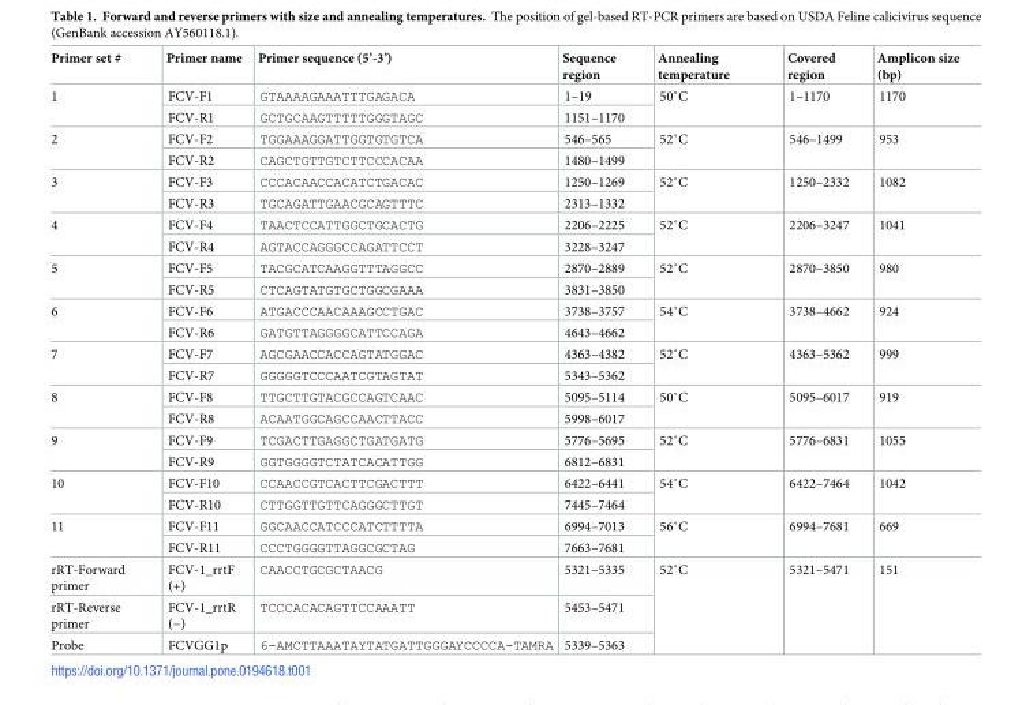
<table><thead><tr><td>Primer set #</td><td>Primer name</td><td>Primer sequence (5’-3’)</td><td>Sequence region</td><td>Annealing temperature</td><td>Covered region</td><td>Amplicon size (bp)</td></tr></thead><tbody><tr><td rowspan="2">1</td><td>FCV-F1</td><td>GTAAAAGAAATTTGAGACA</td><td>1–19</td><td rowspan="2">50˚C</td><td rowspan="2">1–1170</td><td rowspan="2">1170</td></tr><tr><td>FCV-R1</td><td>GCTGCAAGTTTTTGGGTAGC</td><td>1151–1170</td></tr><tr><td rowspan="2">2</td><td>FCV-F2</td><td>TGGAAAGGATTGGTGTGTCA</td><td>546–565</td><td rowspan="2">52˚C</td><td rowspan="2">546–1499</td><td rowspan="2">953</td></tr><tr><td>FCV-R2</td><td>CAGCTGTTGTCTTCCCACAA</td><td>1480–1499</td></tr><tr><td rowspan="2">3</td><td>FCV-F3</td><td>CCCACAACCACATCTGACAC</td><td>1250–1269</td><td rowspan="2">52˚C</td><td rowspan="2">1250–2332</td><td rowspan="2">1082</td></tr><tr><td>FCV-R3</td><td>TGCAGATTGAACGCAGTTTC</td><td>2313–1332</td></tr><tr><td rowspan="2">4</td><td>FCV-F4</td><td>TAACTCCATTGGCTGCACTG</td><td>2206–2225</td><td rowspan="2">52˚C</td><td rowspan="2">2206–3247</td><td rowspan="2">1041</td></tr><tr><td>FCV-R4</td><td>AGTACCAGGGCCAGATTCCT</td><td>3228–3247</td></tr><tr><td rowspan="2">5</td><td>FCV-F5</td><td>TACGCATCAAGGTTTAGGCC</td><td>2870–2889</td><td rowspan="2">52˚C</td><td rowspan="2">2870–3850</td><td rowspan="2">980</td></tr><tr><td>FCV-R5</td><td>CTCAGTATGTGCTGGCGAAA</td><td>3831–3850</td></tr><tr><td rowspan="2">6</td><td>FCV-F6</td><td>ATGACCCAACAAAGCCTGAC</td><td>3738–3757</td><td rowspan="2">54˚C</td><td rowspan="2">3738–4662</td><td rowspan="2">924</td></tr><tr><td>FCV-R6</td><td>GATGTTAGGGGCATTCCAGA</td><td>4643–4662</td></tr><tr><td rowspan="2">7</td><td>FCV-F7</td><td>AGCGAACCACCAGTATGGAC</td><td>4363–4382</td><td rowspan="2">52˚C</td><td rowspan="2">4363–5362</td><td rowspan="2">999</td></tr><tr><td>FCV-R7</td><td>GGGGGTCCCAATCGTAGTAT</td><td>5343–5362</td></tr><tr><td rowspan="2">8</td><td>FCV-F8</td><td>TTGCTTGTACGCCAGTCAAC</td><td>5095–5114</td><td rowspan="2">50˚C</td><td rowspan="2">5095–6017</td><td rowspan="2">919</td></tr><tr><td>FCV-R8</td><td>ACAATGGCAGCCAACTTACC</td><td>5998–6017</td></tr><tr><td rowspan="2">9</td><td>FCV-F9</td><td>TCGACTTGAGGCTGATGATG</td><td>5776–5695</td><td rowspan="2">52˚C</td><td rowspan="2">5776–6831</td><td rowspan="2">1055</td></tr><tr><td>FCV-R9</td><td>GGTGGGGTCTATCACATTGG</td><td>6812–6831</td></tr><tr><td rowspan="2">10</td><td>FCV-F10</td><td>CCAACCGTCACTTCGACTTT</td><td>6422–6441</td><td rowspan="2">54˚C</td><td rowspan="2">6422–7464</td><td rowspan="2">1042</td></tr><tr><td>FCV-R10</td><td>CTTGGTTGTTCAGGGCTTGT</td><td>7445–7464</td></tr><tr><td rowspan="2">11</td><td>FCV-F11</td><td>GGCAACCATCCCATCTTTTA</td><td>6994–7013</td><td rowspan="2">56˚C</td><td rowspan="2">6994–7681</td><td rowspan="2">669</td></tr><tr><td>FCV-R11</td><td>CCCTGGGGTTAGGCGCTAG</td><td>7663–7681</td></tr><tr><td>rRT-Forward primer</td><td>FCV-1_rrtF (+)</td><td>CAACCTGCGCTAACG</td><td>5321–5335</td><td rowspan="3">52˚C</td><td rowspan="3">5321–5471</td><td rowspan="3">151</td></tr><tr><td>rRT-Reverse primer</td><td>FCV-1_rrtR (−)</td><td>TCCCACACAGTTCCAAATT</td><td>5453–5471</td></tr><tr><td>Probe</td><td>FCVGG1p</td><td>6-AMCTTAAATAYTATGATTGGGAYCCCCA-TAMRA</td><td>5339–5363</td></tr></tbody></table>